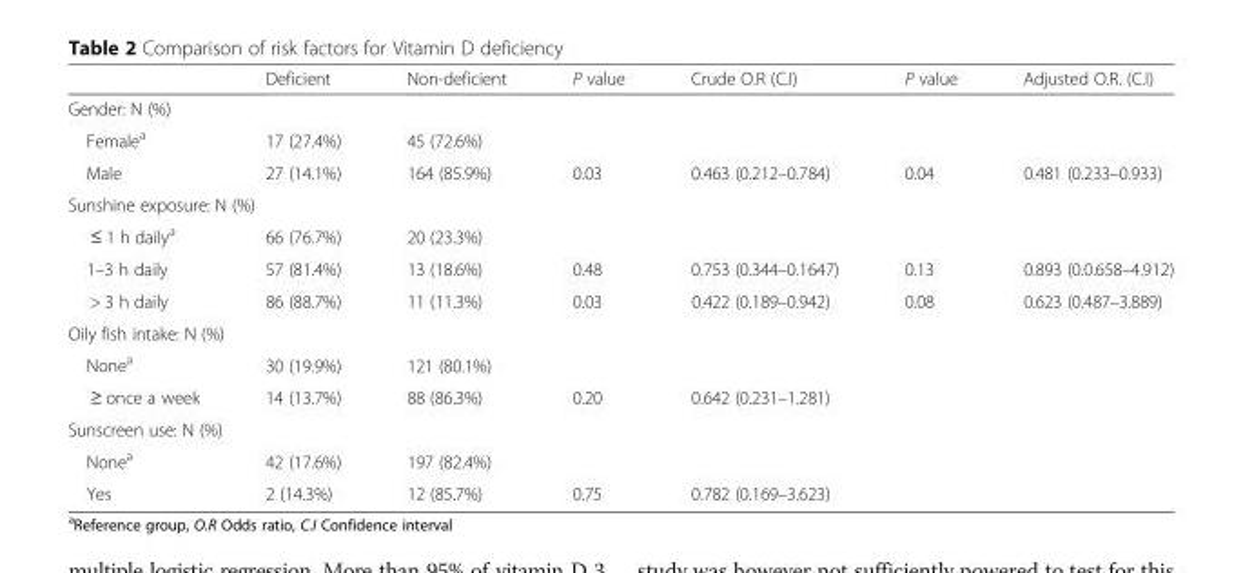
<table><thead><tr><td></td><td>Deficient</td><td>Non-deficient</td><td>P value</td><td>Crude O.R (C.I)</td><td>P value</td><td>Adjusted O.R. (C.I)</td></tr></thead><tbody><tr><td colspan="7">Gender: N (%)</td></tr><tr><td>Female<sup>a</sup></td><td>17 (27.4%)</td><td>45 (72.6%)</td><td></td><td></td><td></td><td></td></tr><tr><td>Male</td><td>27 (14.1%)</td><td>164 (85.9%)</td><td>0.03</td><td>0.463 (0.212–0.784)</td><td>0.04</td><td>0.481 (0.233–0.933)</td></tr><tr><td colspan="7">Sunshine exposure: N (%)</td></tr><tr><td>≤ 1 h daily<sup>a</sup></td><td>66 (76.7%)</td><td>20 (23.3%)</td><td></td><td></td><td></td><td></td></tr><tr><td>1–3 h daily</td><td>57 (81.4%)</td><td>13 (18.6%)</td><td>0.48</td><td>0.753 (0.344–0.1647)</td><td>0.13</td><td>0.893 (0.0.658–4.912)</td></tr><tr><td>&gt; 3 h daily</td><td>86 (88.7%)</td><td>11 (11.3%)</td><td>0.03</td><td>0.422 (0.189–0.942)</td><td>0.08</td><td>0.623 (0.487–3.889)</td></tr><tr><td colspan="7">Oily fish intake: N (%)</td></tr><tr><td>None<sup>a</sup></td><td>30 (19.9%)</td><td>121 (80.1%)</td><td></td><td></td><td></td><td></td></tr><tr><td>≥ once a week</td><td>14 (13.7%)</td><td>88 (86.3%)</td><td>0.20</td><td>0.642 (0.231–1.281)</td><td></td><td></td></tr><tr><td colspan="7">Sunscreen use: N (%)</td></tr><tr><td>None<sup>a</sup></td><td>42 (17.6%)</td><td>197 (82.4%)</td><td></td><td></td><td></td><td></td></tr><tr><td>Yes</td><td>2 (14.3%)</td><td>12 (85.7%)</td><td>0.75</td><td>0.782 (0.169–3.623)</td><td></td><td></td></tr></tbody></table>